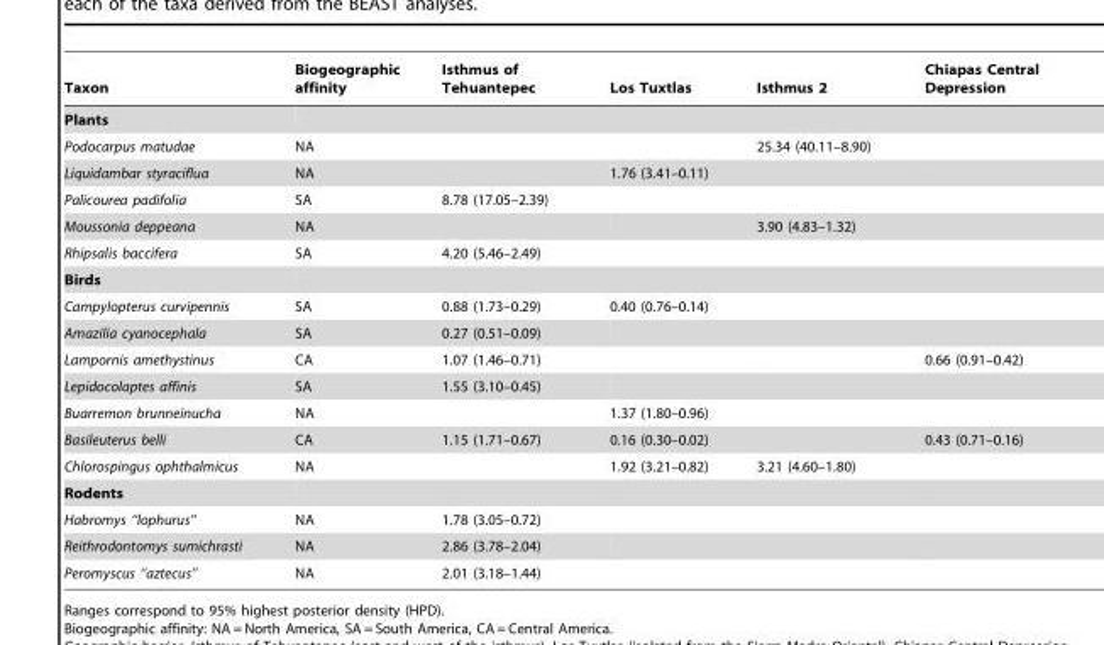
<table><thead><tr><td>Taxon</td><td>Biogeographic affinity</td><td>Isthmus of Tehuantepec</td><td>Los Tuxtlas</td><td>Isthmus 2</td><td>Chiapas Central Depression</td></tr></thead><tbody><tr><td colspan="6">Plants</td></tr><tr><td>Podocarpus matudae</td><td>NA</td><td></td><td></td><td>25.34 (40.11–8.90)</td><td></td></tr><tr><td>Liquidambar styraciflua</td><td>NA</td><td></td><td>1.76 (3.41–0.11)</td><td></td><td></td></tr><tr><td>Palicourea padifolia</td><td>SA</td><td>8.78 (17.05–2.39)</td><td></td><td></td><td></td></tr><tr><td>Moussonia deppeana</td><td>NA</td><td></td><td></td><td>3.90 (4.83–1.32)</td><td></td></tr><tr><td>Rhipsalis baccifera</td><td>SA</td><td>4.20 (5.46–2.49)</td><td></td><td></td><td></td></tr><tr><td colspan="6">Birds</td></tr><tr><td>Campylopterus curvipennis</td><td>SA</td><td>0.88 (1.73–0.29)</td><td>0.40 (0.76–0.14)</td><td></td><td></td></tr><tr><td>Amazilia cyanocephala</td><td>SA</td><td>0.27 (0.51–0.09)</td><td></td><td></td><td></td></tr><tr><td>Lampornis amethystinus</td><td>CA</td><td>1.07 (1.46–0.71)</td><td></td><td></td><td>0.66 (0.91–0.42)</td></tr><tr><td>Lepidocolaptes affinis</td><td>SA</td><td>1.55 (3.10–0.45)</td><td></td><td></td><td></td></tr><tr><td>Buarremon brunneinucha</td><td>NA</td><td></td><td>1.37 (1.80–0.96)</td><td></td><td></td></tr><tr><td>Basileuterus belli</td><td>CA</td><td>1.15 (1.71–0.67)</td><td>0.16 (0.30–0.02)</td><td></td><td>0.43 (0.71–0.16)</td></tr><tr><td>Chlorospingus ophthalmicus</td><td>NA</td><td></td><td>1.92 (3.21–0.82)</td><td>3.21 (4.60–1.80)</td><td></td></tr><tr><td colspan="6">Rodents</td></tr><tr><td>Habromys ‘‘lophurus’’</td><td>NA</td><td>1.78 (3.05–0.72)</td><td></td><td></td><td></td></tr><tr><td>Reithrodontomys sumichrasti</td><td>NA</td><td>2.86 (3.78–2.04)</td><td></td><td></td><td></td></tr><tr><td>Peromyscus ‘‘aztecus’’</td><td>NA</td><td>2.01 (3.18–1.44)</td><td></td><td></td><td></td></tr></tbody></table>